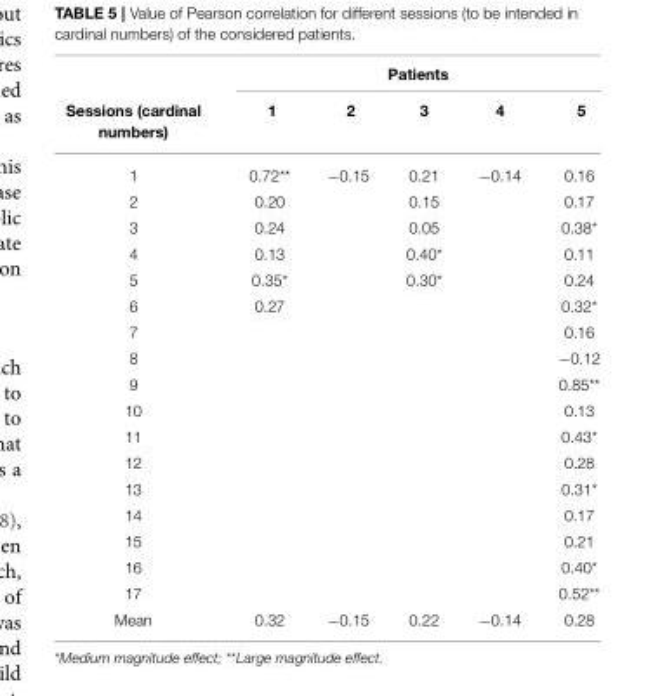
<table><thead><tr><td rowspan="2">Sessions (cardinal numbers)</td><td colspan="5">Patients</td></tr><tr><td>1</td><td>2</td><td>3</td><td>4</td><td>5</td></tr></thead><tbody><tr><td>1</td><td>0.72**</td><td>−0.15</td><td>0.21</td><td>−0.14</td><td>0.16</td></tr><tr><td>2</td><td>0.20</td><td></td><td>0.15</td><td></td><td>0.17</td></tr><tr><td>3</td><td>0.24</td><td></td><td>0.05</td><td></td><td>0.38*</td></tr><tr><td>4</td><td>0.13</td><td></td><td>0.40*</td><td></td><td>0.11</td></tr><tr><td>5</td><td>0.35*</td><td></td><td>0.30*</td><td></td><td>0.24</td></tr><tr><td>6</td><td>0.27</td><td></td><td></td><td></td><td>0.32*</td></tr><tr><td>7</td><td></td><td></td><td></td><td></td><td>0.16</td></tr><tr><td>8</td><td></td><td></td><td></td><td></td><td>−0.12</td></tr><tr><td>9</td><td></td><td></td><td></td><td></td><td>0.85**</td></tr><tr><td>10</td><td></td><td></td><td></td><td></td><td>0.13</td></tr><tr><td>11</td><td></td><td></td><td></td><td></td><td>0.43*</td></tr><tr><td>12</td><td></td><td></td><td></td><td></td><td>0.28</td></tr><tr><td>13</td><td></td><td></td><td></td><td></td><td>0.31*</td></tr><tr><td>14</td><td></td><td></td><td></td><td></td><td>0.17</td></tr><tr><td>15</td><td></td><td></td><td></td><td></td><td>0.21</td></tr><tr><td>16</td><td></td><td></td><td></td><td></td><td>0.40*</td></tr><tr><td>17</td><td></td><td></td><td></td><td></td><td>0.52**</td></tr><tr><td>Mean</td><td>0.32</td><td>−0.15</td><td>0.22</td><td>−0.14</td><td>0.28</td></tr></tbody></table>